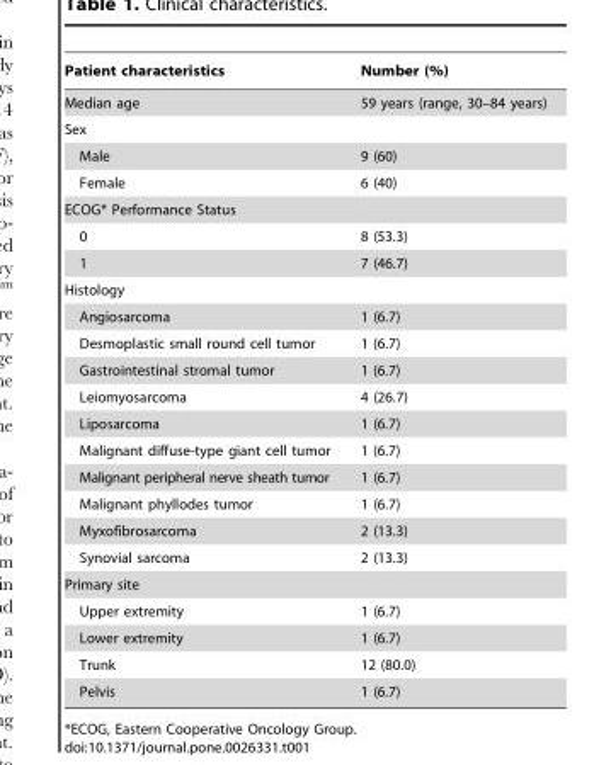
<table><thead><tr><td>Patient characteristics</td><td>Number (%)</td></tr></thead><tbody><tr><td>Median age</td><td>59 years (range, 30–84 years)</td></tr><tr><td colspan="2">Sex</td></tr><tr><td>Male</td><td>9 (60)</td></tr><tr><td>Female</td><td>6 (40)</td></tr><tr><td colspan="2">ECOG* Performance Status</td></tr><tr><td>0</td><td>8 (53.3)</td></tr><tr><td>1</td><td>7 (46.7)</td></tr><tr><td colspan="2">Histology</td></tr><tr><td>Angiosarcoma</td><td>1 (6.7)</td></tr><tr><td>Desmoplastic small round cell tumor</td><td>1 (6.7)</td></tr><tr><td>Gastrointestinal stromal tumor</td><td>1 (6.7)</td></tr><tr><td>Leiomyosarcoma</td><td>4 (26.7)</td></tr><tr><td>Liposarcoma</td><td>1 (6.7)</td></tr><tr><td>Malignant diffuse-type giant cell tumor</td><td>1 (6.7)</td></tr><tr><td>Malignant peripheral nerve sheath tumor</td><td>1 (6.7)</td></tr><tr><td>Malignant phyllodes tumor</td><td>1 (6.7)</td></tr><tr><td>Myxofibrosarcoma</td><td>2 (13.3)</td></tr><tr><td>Synovial sarcoma</td><td>2 (13.3)</td></tr><tr><td colspan="2">Primary site</td></tr><tr><td>Upper extremity</td><td>1 (6.7)</td></tr><tr><td>Lower extremity</td><td>1 (6.7)</td></tr><tr><td>Trunk</td><td>12 (80.0)</td></tr><tr><td>Pelvis</td><td>1 (6.7)</td></tr></tbody></table>